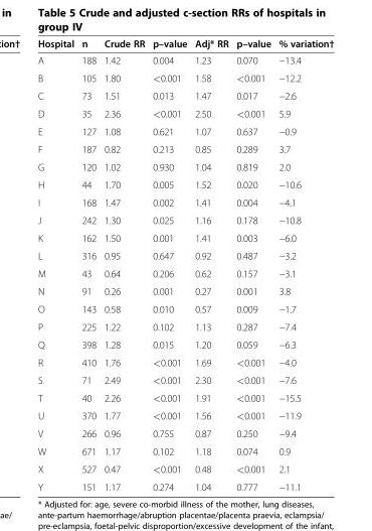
<table><thead><tr><td>Hospital</td><td>n</td><td>Crude RR</td><td>p–value</td><td>Adj* RR</td><td>p–value</td><td>% variation†</td></tr></thead><tbody><tr><td>A</td><td>188</td><td>1.42</td><td>0.004</td><td>1.23</td><td>0.070</td><td>−13.4</td></tr><tr><td>B</td><td>105</td><td>1.80</td><td>&lt;0.001</td><td>1.58</td><td>&lt;0.001</td><td>−12.2</td></tr><tr><td>C</td><td>73</td><td>1.51</td><td>0.013</td><td>1.47</td><td>0.017</td><td>−2.6</td></tr><tr><td>D</td><td>35</td><td>2.36</td><td>&lt;0.001</td><td>2.50</td><td>&lt;0.001</td><td>5.9</td></tr><tr><td>E</td><td>127</td><td>1.08</td><td>0.621</td><td>1.07</td><td>0.637</td><td>−0.9</td></tr><tr><td>F</td><td>187</td><td>0.82</td><td>0.213</td><td>0.85</td><td>0.289</td><td>3.7</td></tr><tr><td>G</td><td>120</td><td>1.02</td><td>0.930</td><td>1.04</td><td>0.819</td><td>2.0</td></tr><tr><td>H</td><td>44</td><td>1.70</td><td>0.005</td><td>1.52</td><td>0.020</td><td>−10.6</td></tr><tr><td>I</td><td>168</td><td>1.47</td><td>0.002</td><td>1.41</td><td>0.004</td><td>−4.1</td></tr><tr><td>J</td><td>242</td><td>1.30</td><td>0.025</td><td>1.16</td><td>0.178</td><td>−10.8</td></tr><tr><td>K</td><td>162</td><td>1.50</td><td>0.001</td><td>1.41</td><td>0.003</td><td>−6.0</td></tr><tr><td>L</td><td>316</td><td>0.95</td><td>0.647</td><td>0.92</td><td>0.487</td><td>−3.2</td></tr><tr><td>M</td><td>43</td><td>0.64</td><td>0.206</td><td>0.62</td><td>0.157</td><td>−3.1</td></tr><tr><td>N</td><td>91</td><td>0.26</td><td>0.001</td><td>0.27</td><td>0.001</td><td>3.8</td></tr><tr><td>O</td><td>143</td><td>0.58</td><td>0.010</td><td>0.57</td><td>0.009</td><td>−1.7</td></tr><tr><td>P</td><td>225</td><td>1.22</td><td>0.102</td><td>1.13</td><td>0.287</td><td>−7.4</td></tr><tr><td>Q</td><td>398</td><td>1.28</td><td>0.015</td><td>1.20</td><td>0.059</td><td>−6.3</td></tr><tr><td>R</td><td>410</td><td>1.76</td><td>&lt;0.001</td><td>1.69</td><td>&lt;0.001</td><td>−4.0</td></tr><tr><td>S</td><td>71</td><td>2.49</td><td>&lt;0.001</td><td>2.30</td><td>&lt;0.001</td><td>−7.6</td></tr><tr><td>T</td><td>40</td><td>2.26</td><td>&lt;0.001</td><td>1.91</td><td>&lt;0.001</td><td>−15.5</td></tr><tr><td>U</td><td>370</td><td>1.77</td><td>&lt;0.001</td><td>1.56</td><td>&lt;0.001</td><td>−11.9</td></tr><tr><td>V</td><td>266</td><td>0.96</td><td>0.755</td><td>0.87</td><td>0.250</td><td>−9.4</td></tr><tr><td>W</td><td>671</td><td>1.17</td><td>0.102</td><td>1.18</td><td>0.074</td><td>0.9</td></tr><tr><td>X</td><td>527</td><td>0.47</td><td>&lt;0.001</td><td>0.48</td><td>&lt;0.001</td><td>2.1</td></tr><tr><td>Y</td><td>151</td><td>1.17</td><td>0.274</td><td>1.04</td><td>0.777</td><td>−11.1</td></tr></tbody></table>